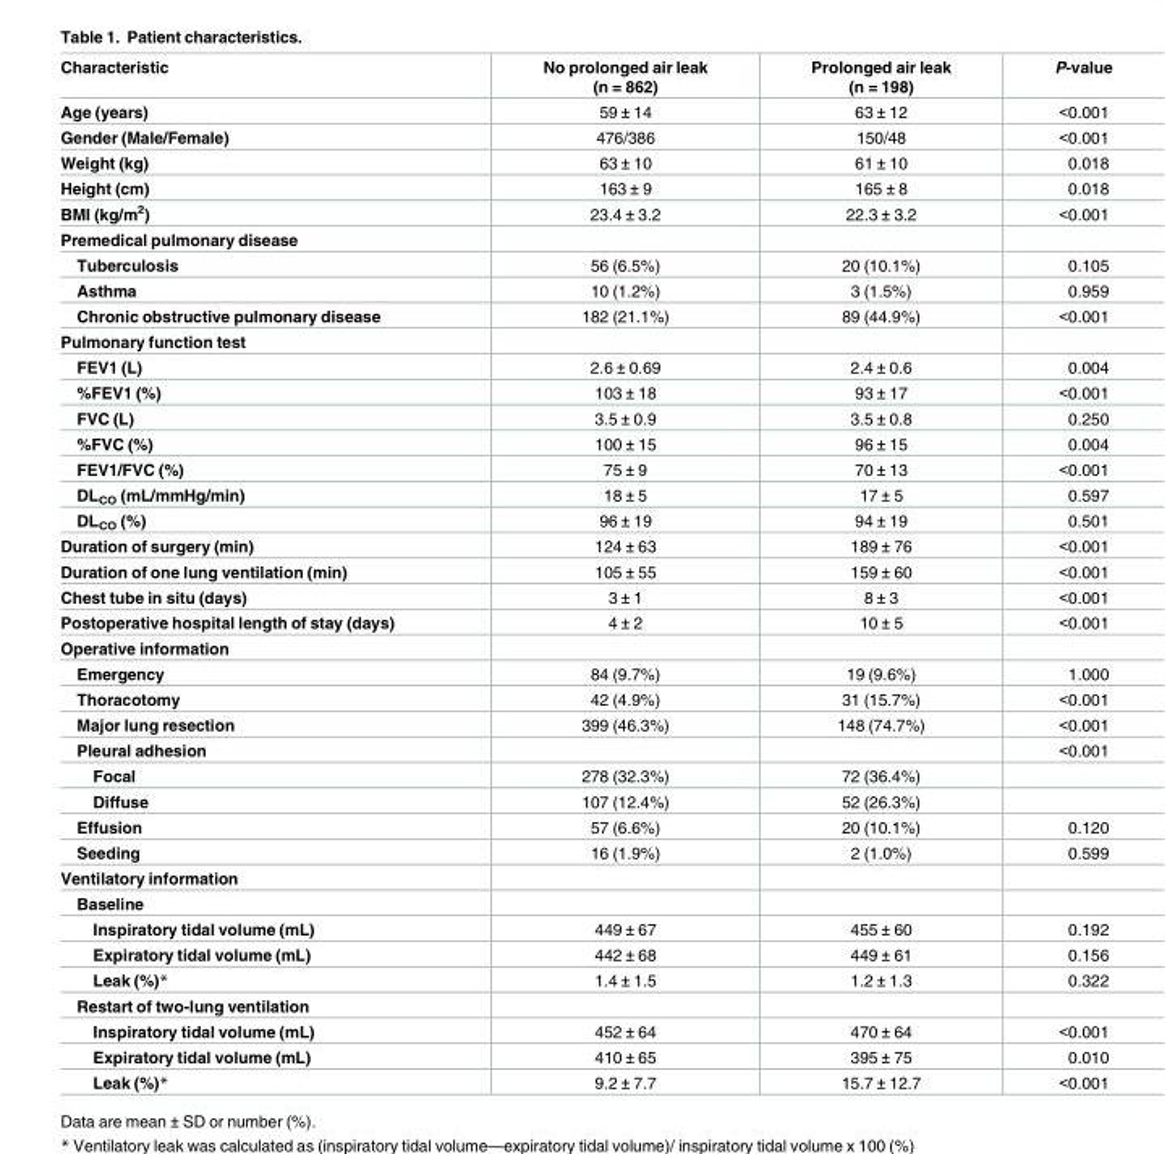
<table><thead><tr><td>Characteristic</td><td>No prolonged air leak (n = 862)</td><td>Prolonged air leak (n = 198)</td><td>P-value</td></tr></thead><tbody><tr><td>Age (years)</td><td>59 ± 14</td><td>63 ± 12</td><td>&lt;0.001</td></tr><tr><td>Gender (Male/Female)</td><td>476/386</td><td>150/48</td><td>&lt;0.001</td></tr><tr><td>Weight (kg)</td><td>63 ± 10</td><td>61 ± 10</td><td>0.018</td></tr><tr><td>Height (cm)</td><td>163 ± 9</td><td>165 ± 8</td><td>0.018</td></tr><tr><td>BMI (kg/m<sup>2</sup>)</td><td>23.4 ± 3.2</td><td>22.3 ± 3.2</td><td>&lt;0.001</td></tr><tr><td colspan="4">Premedical pulmonary disease</td></tr><tr><td>Tuberculosis</td><td>56 (6.5%)</td><td>20 (10.1%)</td><td>0.105</td></tr><tr><td>Asthma</td><td>10 (1.2%)</td><td>3 (1.5%)</td><td>0.959</td></tr><tr><td>Chronic obstructive pulmonary disease</td><td>182 (21.1%)</td><td>89 (44.9%)</td><td>&lt;0.001</td></tr><tr><td colspan="4">Pulmonary function test</td></tr><tr><td>FEV1 (L)</td><td>2.6 ± 0.69</td><td>2.4 ± 0.6</td><td>0.004</td></tr><tr><td>%FEV1 (%)</td><td>103 ± 18</td><td>93 ± 17</td><td>&lt;0.001</td></tr><tr><td>FVC (L)</td><td>3.5 ± 0.9</td><td>3.5 ± 0.8</td><td>0.250</td></tr><tr><td>%FVC (%)</td><td>100 ± 15</td><td>96 ± 15</td><td>0.004</td></tr><tr><td>FEV1/FVC (%)</td><td>75 ± 9</td><td>70 ± 13</td><td>&lt;0.001</td></tr><tr><td>DL<sub>CO</sub> (mL/mmHg/min)</td><td>18 ± 5</td><td>17 ± 5</td><td>0.597</td></tr><tr><td>DL<sub>CO</sub> (%)</td><td>96 ± 19</td><td>94 ± 19</td><td>0.501</td></tr><tr><td>Duration of surgery (min)</td><td>124 ± 63</td><td>189 ± 76</td><td>&lt;0.001</td></tr><tr><td>Duration of one lung ventilation (min)</td><td>105 ± 55</td><td>159 ± 60</td><td>&lt;0.001</td></tr><tr><td>Chest tube in situ (days)</td><td>3 ± 1</td><td>8 ± 3</td><td>&lt;0.001</td></tr><tr><td>Postoperative hospital length of stay (days)</td><td>4 ± 2</td><td>10 ± 5</td><td>&lt;0.001</td></tr><tr><td colspan="4">Operative information</td></tr><tr><td>Emergency</td><td>84 (9.7%)</td><td>19 (9.6%)</td><td>1.000</td></tr><tr><td>Thoracotomy</td><td>42 (4.9%)</td><td>31 (15.7%)</td><td>&lt;0.001</td></tr><tr><td>Major lung resection</td><td>399 (46.3%)</td><td>148 (74.7%)</td><td>&lt;0.001</td></tr><tr><td>Pleural adhesion</td><td></td><td></td><td>&lt;0.001</td></tr><tr><td>Focal</td><td>278 (32.3%)</td><td>72 (36.4%)</td><td></td></tr><tr><td>Diffuse</td><td>107 (12.4%)</td><td>52 (26.3%)</td><td></td></tr><tr><td>Effusion</td><td>57 (6.6%)</td><td>20 (10.1%)</td><td>0.120</td></tr><tr><td>Seeding</td><td>16 (1.9%)</td><td>2 (1.0%)</td><td>0.599</td></tr><tr><td colspan="4">Ventilatory information</td></tr><tr><td colspan="4">Baseline</td></tr><tr><td>Inspiratory tidal volume (mL)</td><td>449 ± 67</td><td>455 ± 60</td><td>0.192</td></tr><tr><td>Expiratory tidal volume (mL)</td><td>442 ± 68</td><td>449 ± 61</td><td>0.156</td></tr><tr><td>Leak (%)*</td><td>1.4 ± 1.5</td><td>1.2 ± 1.3</td><td>0.322</td></tr><tr><td colspan="4">Restart of two-lung ventilation</td></tr><tr><td>Inspiratory tidal volume (mL)</td><td>452 ± 64</td><td>470 ± 64</td><td>&lt;0.001</td></tr><tr><td>Expiratory tidal volume (mL)</td><td>410 ± 65</td><td>395 ± 75</td><td>0.010</td></tr><tr><td>Leak (%)*</td><td>9.2 ± 7.7</td><td>15.7 ± 12.7</td><td>&lt;0.001</td></tr></tbody></table>